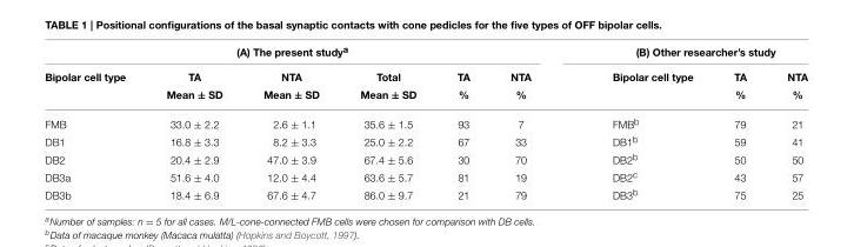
<table><thead><tr><td colspan="6">(A) The present study<sup>a</sup></td><td colspan="3">(B) Other researcher’s study</td></tr><tr><td rowspan="2">Bipolar cell type</td><td rowspan="2">TA Mean ± SD</td><td rowspan="2">NTA Mean ± SD</td><td rowspan="2">Total Mean ± SD</td><td rowspan="2">TA %</td><td rowspan="2">NTA %</td><td rowspan="2">Bipolar cell type</td><td rowspan="2">TA %</td><td rowspan="2">NTA %</td></tr><tr></tr></thead><tbody><tr><td>FMB</td><td>33.0 ± 2.2</td><td>2.6 ± 1.1</td><td>35.6 ± 1.5</td><td>93</td><td>7</td><td>FMB<sup>b</sup></td><td>79</td><td>21</td></tr><tr><td>DB1</td><td>16.8 ± 3.3</td><td>8.2 ± 3.3</td><td>25.0 ± 2.2</td><td>67</td><td>33</td><td>DB1<sup>b</sup></td><td>59</td><td>41</td></tr><tr><td>DB2</td><td>20.4 ± 2.9</td><td>47.0 ± 3.9</td><td>67.4 ± 5.6</td><td>30</td><td>70</td><td>DB2<sup>b</sup></td><td>50</td><td>50</td></tr><tr><td>DB3a</td><td>51.6 ± 4.0</td><td>12.0 ± 4.4</td><td>63.6 ± 5.7</td><td>81</td><td>19</td><td>DB2<sup>c</sup></td><td>43</td><td>57</td></tr><tr><td>DB3b</td><td>18.4 ± 6.9</td><td>67.6 ± 4.7</td><td>86.0 ± 9.7</td><td>21</td><td>79</td><td>DB3<sup>b</sup></td><td>75</td><td>25</td></tr></tbody></table>